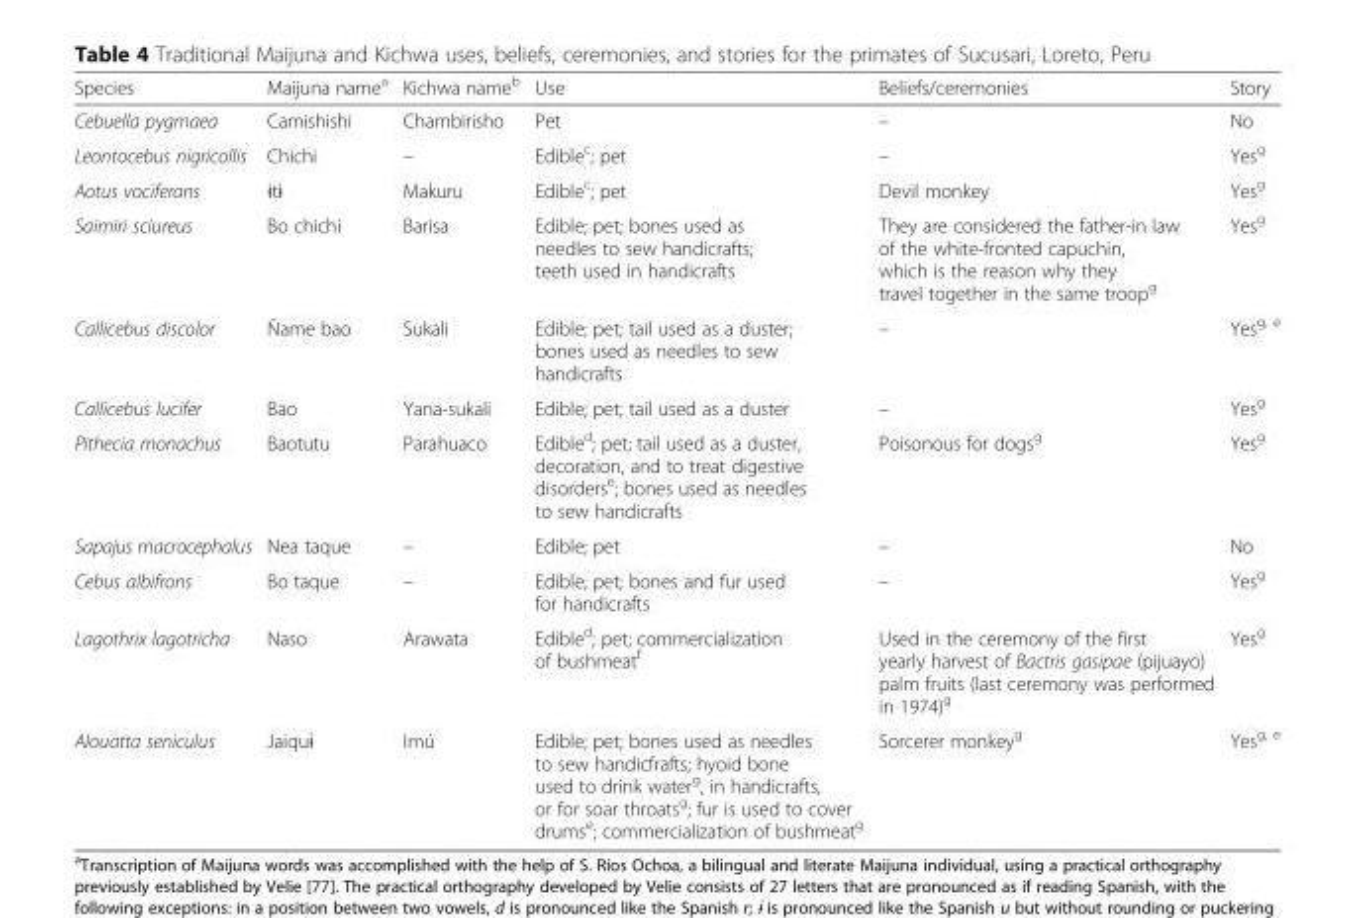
<table><thead><tr><td>Species</td><td>Maijuna name<sup>a</sup></td><td>Kichwa name<sup>b</sup></td><td>Use</td><td>Beliefs/ceremonies</td><td>Story</td></tr></thead><tbody><tr><td>Cebuella pygmaea</td><td>Camishishi</td><td>Chambirisho</td><td>Pet</td><td>–</td><td>No</td></tr><tr><td>Leontocebus nigricollis</td><td>Chichi</td><td>–</td><td>Edible<sup>c</sup>; pet</td><td>–</td><td>Yes<sup>g</sup></td></tr><tr><td>Aotus vociferans</td><td>ɨtɨ</td><td>Makuru</td><td>Edible<sup>c</sup>; pet</td><td>Devil monkey</td><td>Yes<sup>g</sup></td></tr><tr><td>Saimiri sciureus</td><td>Bo chichi</td><td>Barisa</td><td>Edible; pet; bones used as needles to sew handicrafts; teeth used in handicrafts</td><td>They are considered the father-in law of the white-fronted capuchin, which is the reason why they travel together in the same troop<sup>g</sup></td><td>Yes<sup>g</sup></td></tr><tr><td>Callicebus discolor</td><td>Ñame bao</td><td>Sukali</td><td>Edible; pet; tail used as a duster; bones used as needles to sew handicrafts</td><td>–</td><td>Yes<sup>g, e</sup></td></tr><tr><td>Callicebus lucifer</td><td>Bao</td><td>Yana-sukali</td><td>Edible; pet; tail used as a duster</td><td>–</td><td>Yes<sup>g</sup></td></tr><tr><td>Pithecia monachus</td><td>Baotutu</td><td>Parahuaco</td><td>Edible<sup>d</sup>; pet; tail used as a duster, decoration, and to treat digestive disorders<sup>e</sup>; bones used as needles to sew handicrafts</td><td>Poisonous for dogs<sup>g</sup></td><td>Yes<sup>g</sup></td></tr><tr><td>Sapajus macrocephalus</td><td>Nea taque</td><td>–</td><td>Edible; pet</td><td>–</td><td>No</td></tr><tr><td>Cebus albifrons</td><td>Bo taque</td><td>–</td><td>Edible; pet; bones and fur used for handicrafts</td><td>–</td><td>Yes<sup>g</sup></td></tr><tr><td>Lagothrix lagotricha</td><td>Naso</td><td>Arawata</td><td>Edible<sup>d</sup>; pet; commercialization of bushmeat<sup>f</sup></td><td>Used in the ceremony of the first yearly harvest of Bactris gasipae (pijuayo) palm fruits (last ceremony was performed in 1974)<sup>g</sup></td><td>Yes<sup>g</sup></td></tr><tr><td>Alouatta seniculus</td><td>Jaiquɨ</td><td>Imú</td><td>Edible; pet; bones used as needles to sew handicfrafts; hyoid bone used to drink water<sup>g</sup>, in handicrafts, or for soar throats<sup>g</sup>; fur is used to cover drums<sup>e</sup>; commercialization of bushmeat<sup>g</sup></td><td>Sorcerer monkey<sup>g</sup></td><td>Yes<sup>g, e</sup></td></tr></tbody></table>